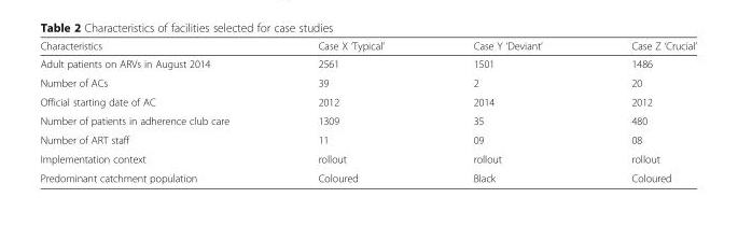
<table><thead><tr><td>Characteristics</td><td>Case X ‘Typical’</td><td>Case Y ‘Deviant’</td><td>Case Z ‘Crucial’</td></tr></thead><tbody><tr><td>Adult patients on ARVs in August 2014</td><td>2561</td><td>1501</td><td>1486</td></tr><tr><td>Number of ACs</td><td>39</td><td>2</td><td>20</td></tr><tr><td>Official starting date of AC</td><td>2012</td><td>2014</td><td>2012</td></tr><tr><td>Number of patients in adherence club care</td><td>1309</td><td>35</td><td>480</td></tr><tr><td>Number of ART staff</td><td>11</td><td>09</td><td>08</td></tr><tr><td>Implementation context</td><td>rollout</td><td>rollout</td><td>rollout</td></tr><tr><td>Predominant catchment population</td><td>Coloured</td><td>Black</td><td>Coloured</td></tr></tbody></table>